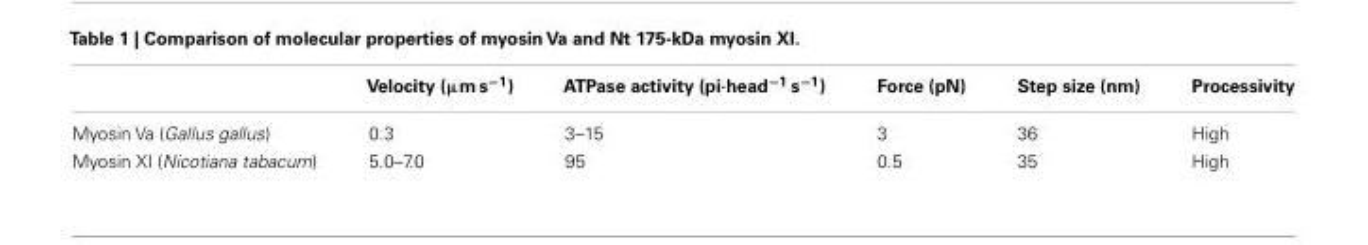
<table><thead><tr><td></td><td>Velocity (µm s<sup>−1</sup>)</td><td>ATPase activity (pi·head<sup>−1</sup> s<sup>−1</sup>)</td><td>Force (pN)</td><td>Step size (nm)</td><td>Processivity</td></tr></thead><tbody><tr><td>Myosin Va (Gallus gallus)</td><td>0.3</td><td>3–15</td><td>3</td><td>36</td><td>High</td></tr><tr><td>Myosin XI (Nicotiana tabacum)</td><td>5.0–7.0</td><td>95</td><td>0.5</td><td>35</td><td>High</td></tr></tbody></table>